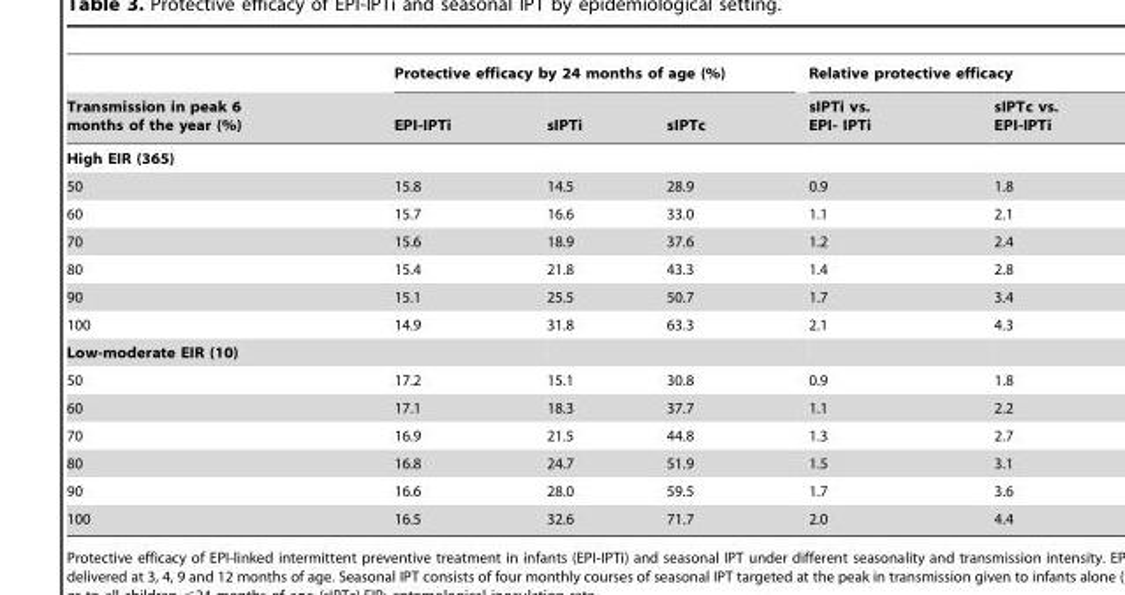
<table><thead><tr><td rowspan="2">Transmission in peak 6 months of the year (%)</td><td colspan="3">Protective efficacy by 24 months of age (%)</td><td colspan="2">Relative protective efficacy</td></tr><tr><td>EPI-IPTi</td><td>sIPTi</td><td>sIPTc</td><td>sIPTi vs. EPI- IPTi</td><td>sIPTc vs. EPI-IPTi</td></tr></thead><tbody><tr><td colspan="6">High EIR (365)</td></tr><tr><td>50</td><td>15.8</td><td>14.5</td><td>28.9</td><td>0.9</td><td>1.8</td></tr><tr><td>60</td><td>15.7</td><td>16.6</td><td>33.0</td><td>1.1</td><td>2.1</td></tr><tr><td>70</td><td>15.6</td><td>18.9</td><td>37.6</td><td>1.2</td><td>2.4</td></tr><tr><td>80</td><td>15.4</td><td>21.8</td><td>43.3</td><td>1.4</td><td>2.8</td></tr><tr><td>90</td><td>15.1</td><td>25.5</td><td>50.7</td><td>1.7</td><td>3.4</td></tr><tr><td>100</td><td>14.9</td><td>31.8</td><td>63.3</td><td>2.1</td><td>4.3</td></tr><tr><td colspan="6">Low-moderate EIR (10)</td></tr><tr><td>50</td><td>17.2</td><td>15.1</td><td>30.8</td><td>0.9</td><td>1.8</td></tr><tr><td>60</td><td>17.1</td><td>18.3</td><td>37.7</td><td>1.1</td><td>2.2</td></tr><tr><td>70</td><td>16.9</td><td>21.5</td><td>44.8</td><td>1.3</td><td>2.7</td></tr><tr><td>80</td><td>16.8</td><td>24.7</td><td>51.9</td><td>1.5</td><td>3.1</td></tr><tr><td>90</td><td>16.6</td><td>28.0</td><td>59.5</td><td>1.7</td><td>3.6</td></tr><tr><td>100</td><td>16.5</td><td>32.6</td><td>71.7</td><td>2.0</td><td>4.4</td></tr></tbody></table>